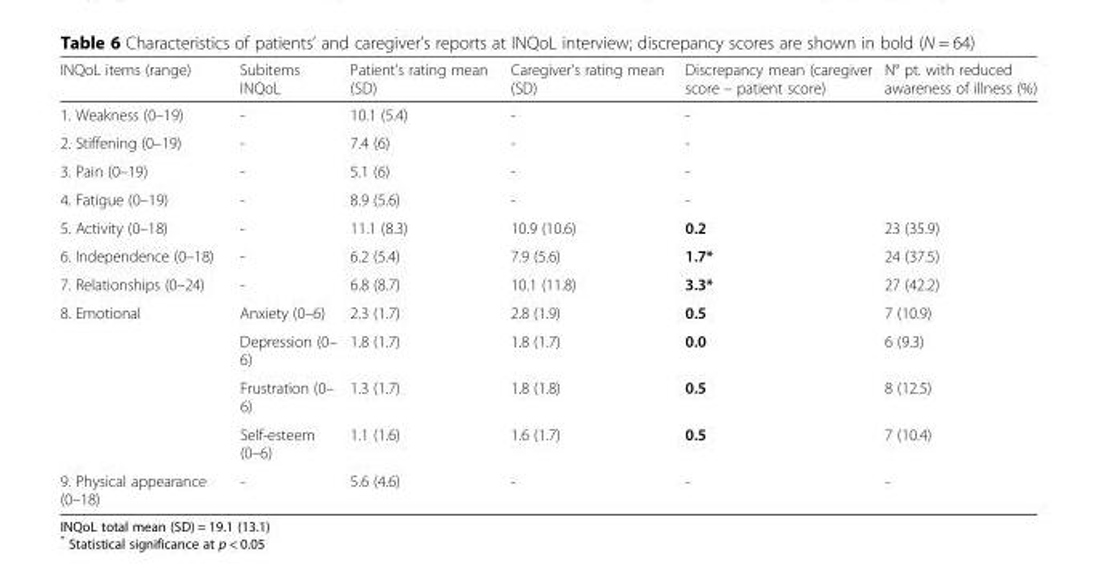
<table><thead><tr><td>INQoL items (range)</td><td>Subitems INQoL</td><td>Patient’s rating mean (SD)</td><td>Caregiver’s rating mean (SD)</td><td>Discrepancy mean (caregiver score – patient score)</td><td>N° pt. with reduced awareness of illness (%)</td></tr></thead><tbody><tr><td>1. Weakness (0–19)</td><td>-</td><td>10.1 (5.4)</td><td>-</td><td>-</td><td></td></tr><tr><td>2. Stiffening (0–19)</td><td>-</td><td>7.4 (6)</td><td>-</td><td>-</td><td></td></tr><tr><td>3. Pain (0–19)</td><td>-</td><td>5.1 (6)</td><td>-</td><td>-</td><td></td></tr><tr><td>4. Fatigue (0–19)</td><td>-</td><td>8.9 (5.6)</td><td>-</td><td>-</td><td></td></tr><tr><td>5. Activity (0–18)</td><td>-</td><td>11.1 (8.3)</td><td>10.9 (10.6)</td><td>0.2</td><td>23 (35.9)</td></tr><tr><td>6. Independence (0–18)</td><td>-</td><td>6.2 (5.4)</td><td>7.9 (5.6)</td><td>1.7*</td><td>24 (37.5)</td></tr><tr><td>7. Relationships (0–24)</td><td>-</td><td>6.8 (8.7)</td><td>10.1 (11.8)</td><td>3.3*</td><td>27 (42.2)</td></tr><tr><td rowspan="4">8. Emotional</td><td>Anxiety (0–6)</td><td>2.3 (1.7)</td><td>2.8 (1.9)</td><td>0.5</td><td>7 (10.9)</td></tr><tr><td>Depression (0– 6)</td><td>1.8 (1.7)</td><td>1.8 (1.7)</td><td>0.0</td><td>6 (9.3)</td></tr><tr><td>Frustration (0– 6)</td><td>1.3 (1.7)</td><td>1.8 (1.8)</td><td>0.5</td><td>8 (12.5)</td></tr><tr><td>Self-esteem (0–6)</td><td>1.1 (1.6)</td><td>1.6 (1.7)</td><td>0.5</td><td>7 (10.4)</td></tr><tr><td>9. Physical appearance (0–18)</td><td>-</td><td>5.6 (4.6)</td><td>-</td><td>-</td><td>-</td></tr></tbody></table>